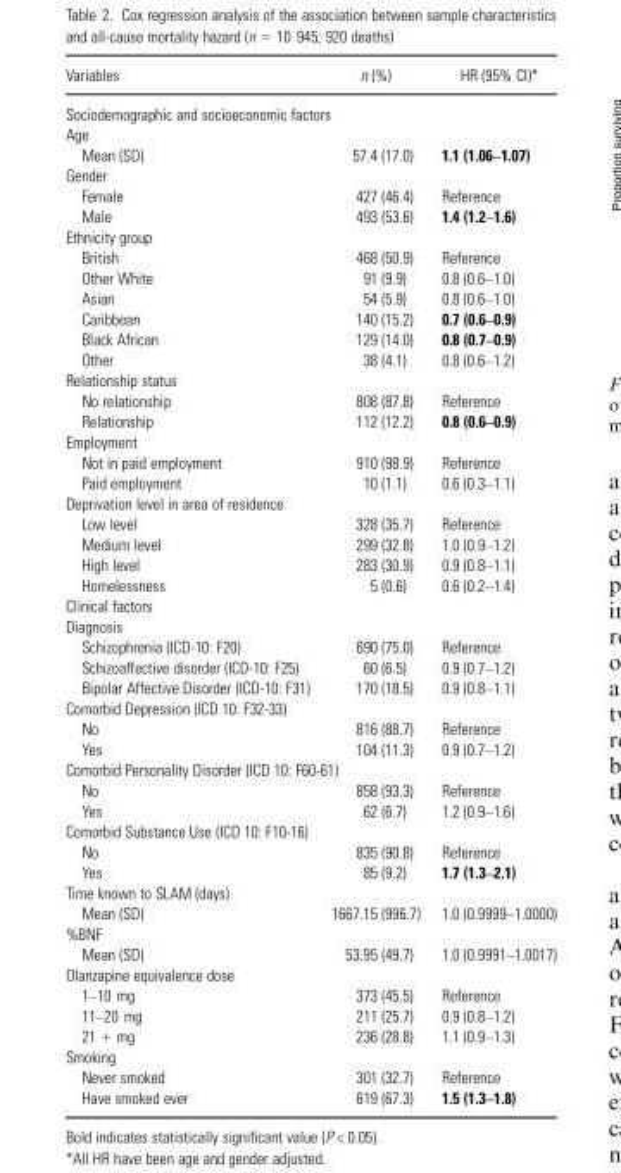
<table><thead><tr><td>Variables</td><td>n (%)</td><td>HR (95% CI)*</td></tr></thead><tbody><tr><td colspan="3">Sociodemographic and socioeconomic factors</td></tr><tr><td colspan="3">Age</td></tr><tr><td>Mean (SD)</td><td>57.4 (17.0)</td><td>1.1 (1.06–1.07)</td></tr><tr><td colspan="3">Gender</td></tr><tr><td>Female</td><td>427 (46.4)</td><td>Reference</td></tr><tr><td>Male</td><td>493 (53.6)</td><td>1.4 (1.2–1.6)</td></tr><tr><td colspan="3">Ethnicity group</td></tr><tr><td>British</td><td>468 (50.9)</td><td>Reference</td></tr><tr><td>Other White</td><td>91 (9.9)</td><td>0.8 (0.6–1.0)</td></tr><tr><td>Asian</td><td>54 (5.9)</td><td>0.8 (0.6–1.0)</td></tr><tr><td>Caribbean</td><td>140 (15.2)</td><td>0.7 (0.6–0.9)</td></tr><tr><td>Black African</td><td>129 (14.0)</td><td>0.8 (0.7–0.9)</td></tr><tr><td>Other</td><td>38 (4.1)</td><td>0.8 (0.6–1.2)</td></tr><tr><td colspan="3">Relationship status</td></tr><tr><td>No relationship</td><td>808 (87.8)</td><td>Reference</td></tr><tr><td>Relationship</td><td>112 (12.2)</td><td>0.8 (0.6–0.9)</td></tr><tr><td colspan="3">Employment</td></tr><tr><td>Not in paid employment</td><td>910 (98.9)</td><td>Reference</td></tr><tr><td>Paid employment</td><td>10 (1.1)</td><td>0.6 (0.3–1.1)</td></tr><tr><td colspan="3">Deprivation level in area of residence</td></tr><tr><td>Low level</td><td>328 (35.7)</td><td>Reference</td></tr><tr><td>Medium level</td><td>299 (32.8)</td><td>1.0 (0.9–1.2)</td></tr><tr><td>High level</td><td>283 (30.9)</td><td>0.9 (0.8–1.1)</td></tr><tr><td>Homelessness</td><td>5 (0.6)</td><td>0.6 (0.2–1.4)</td></tr><tr><td colspan="3">Clinical factors</td></tr><tr><td colspan="3">Diagnosis</td></tr><tr><td>Schizophrenia (ICD-10: F20)</td><td>690 (75.0)</td><td>Reference</td></tr><tr><td>Schizoaffective disorder (ICD-10: F25)</td><td>60 (6.5)</td><td>0.9 (0.7–1.2)</td></tr><tr><td>Bipolar Affective Disorder (ICD-10: F31)</td><td>170 (18.5)</td><td>0.9 (0.8–1.1)</td></tr><tr><td colspan="3">Comorbid Depression (ICD 10: F32-33)</td></tr><tr><td>No</td><td>816 (88.7)</td><td>Reference</td></tr><tr><td>Yes</td><td>104 (11.3)</td><td>0.9 (0.7–1.2)</td></tr><tr><td colspan="3">Comorbid Personality Disorder (ICD 10: F60-61)</td></tr><tr><td>No</td><td>858 (93.3)</td><td>Reference</td></tr><tr><td>Yes</td><td>62 (6.7)</td><td>1.2 (0.9–1.6)</td></tr><tr><td colspan="3">Comorbid Substance Use (ICD 10: F10-16)</td></tr><tr><td>No</td><td>835 (90.8)</td><td>Reference</td></tr><tr><td>Yes</td><td>85 (9.2)</td><td>1.7 (1.3–2.1)</td></tr><tr><td colspan="3">Time known to SLAM (days)</td></tr><tr><td>Mean (SD)</td><td>1667.15 (996.7)</td><td>1.0 (0.9999–1.0000)</td></tr><tr><td colspan="3">%BNF</td></tr><tr><td>Mean (SD)</td><td>53.95 (49.7)</td><td>1.0 (0.9991–1.0017)</td></tr><tr><td colspan="3">Olanzapine equivalence dose</td></tr><tr><td>1–10 mg</td><td>373 (45.5)</td><td>Reference</td></tr><tr><td>11–20 mg</td><td>211 (25.7)</td><td>0.9 (0.8–1.2)</td></tr><tr><td>21 + mg</td><td>236 (28.8)</td><td>1.1 (0.9–1.3)</td></tr><tr><td colspan="3">Smoking</td></tr><tr><td>Never smoked</td><td>301 (32.7)</td><td>Reference</td></tr><tr><td>Have smoked ever</td><td>619 (67.3)</td><td>1.5 (1.3–1.8)</td></tr></tbody></table>